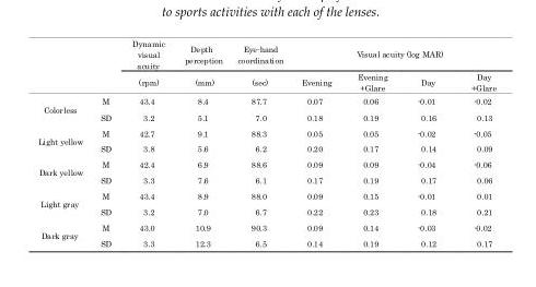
<table><thead><tr><td rowspan="2"></td><td rowspan="2"></td><td rowspan="2">Dynamic visual acuity (rpm)</td><td rowspan="2">Depth perception (mm)</td><td rowspan="2">Eye-hand coordination (sec)</td><td colspan="4">Visual acuity (log MAR)</td></tr><tr><td>Evening</td><td>Evening +Glare</td><td>Day</td><td>Day +Glare</td></tr></thead><tbody><tr><td rowspan="2">Colorless</td><td>M</td><td>43.4</td><td>8.4</td><td>87.7</td><td>0.07</td><td>0.06</td><td>-0.01</td><td>-0.02</td></tr><tr><td>SD</td><td>3.2</td><td>5.1</td><td>7.0</td><td>0.18</td><td>0.19</td><td>0.16</td><td>0.13</td></tr><tr><td rowspan="2">Light yellow</td><td>M</td><td>42.7</td><td>9.1</td><td>88.3</td><td>0.05</td><td>0.05</td><td>-0.02</td><td>-0.05</td></tr><tr><td>SD</td><td>3.8</td><td>5.6</td><td>6.2</td><td>0.20</td><td>0.17</td><td>0.14</td><td>0.09</td></tr><tr><td rowspan="2">Dark yellow</td><td>M</td><td>42.4</td><td>6.9</td><td>88.6</td><td>0.09</td><td>0.09</td><td>-0.04</td><td>-0.06</td></tr><tr><td>SD</td><td>3.3</td><td>7.6</td><td>6.1</td><td>0.17</td><td>0.19</td><td>0.17</td><td>0.06</td></tr><tr><td rowspan="2">Light gray</td><td>M</td><td>43.4</td><td>8.9</td><td>88.0</td><td>0.09</td><td>0.15</td><td>-0.01</td><td>0.01</td></tr><tr><td>SD</td><td>3.2</td><td>7.0</td><td>6.7</td><td>0.22</td><td>0.23</td><td>0.18</td><td>0.21</td></tr><tr><td rowspan="2">Dark gray</td><td>M</td><td>43.0</td><td>10.9</td><td>90.3</td><td>0.09</td><td>0.14</td><td>-0.03</td><td>-0.02</td></tr><tr><td>SD</td><td>3.3</td><td>12.3</td><td>6.5</td><td>0.14</td><td>0.19</td><td>0.12</td><td>0.17</td></tr></tbody></table>